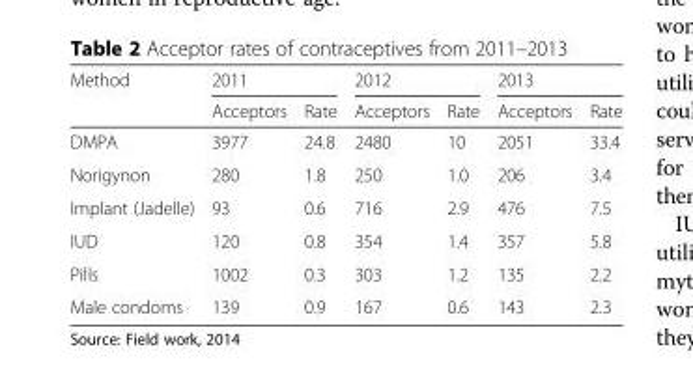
<table><thead><tr><td rowspan="2">Method</td><td colspan="2">2011</td><td colspan="2">2012</td><td colspan="2">2013</td></tr><tr><td>Acceptors</td><td>Rate</td><td>Acceptors</td><td>Rate</td><td>Acceptors</td><td>Rate</td></tr></thead><tbody><tr><td>DMPA</td><td>3977</td><td>24.8</td><td>2480</td><td>10</td><td>2051</td><td>33.4</td></tr><tr><td>Norigynon</td><td>280</td><td>1.8</td><td>250</td><td>1.0</td><td>206</td><td>3.4</td></tr><tr><td>Implant (Jadelle)</td><td>93</td><td>0.6</td><td>716</td><td>2.9</td><td>476</td><td>7.5</td></tr><tr><td>IUD</td><td>120</td><td>0.8</td><td>354</td><td>1.4</td><td>357</td><td>5.8</td></tr><tr><td>Pills</td><td>1002</td><td>0.3</td><td>303</td><td>1.2</td><td>135</td><td>2.2</td></tr><tr><td>Male condoms</td><td>139</td><td>0.9</td><td>167</td><td>0.6</td><td>143</td><td>2.3</td></tr></tbody></table>